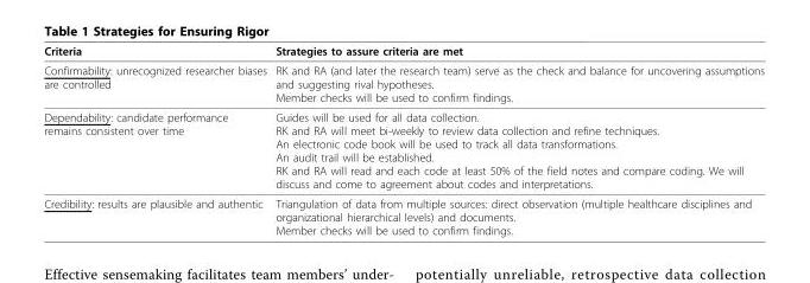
<table><thead><tr><td>Criteria</td><td>Strategies to assure criteria are met</td></tr></thead><tbody><tr><td>Confirmability: unrecognized researcher biases are controlled</td><td>RK and RA (and later the research team) serve as the check and balance for uncovering assumptions and suggesting rival hypotheses. Member checks will be used to confirm findings.</td></tr><tr><td>Dependability: candidate performance remains consistent over time</td><td>Guides will be used for all data collection. RK and RA will meet bi-weekly to review data collection and refine techniques. An electronic code book will be used to track all data transformations. An audit trail will be established. RK and RA will read and each code at least 50% of the field notes and compare coding. We will discuss and come to agreement about codes and interpretations.</td></tr><tr><td>Credibility: results are plausible and authentic</td><td>Triangulation of data from multiple sources: direct observation (multiple healthcare disciplines and organizational hierarchical levels) and documents. Member checks will be used to confirm findings.</td></tr></tbody></table>